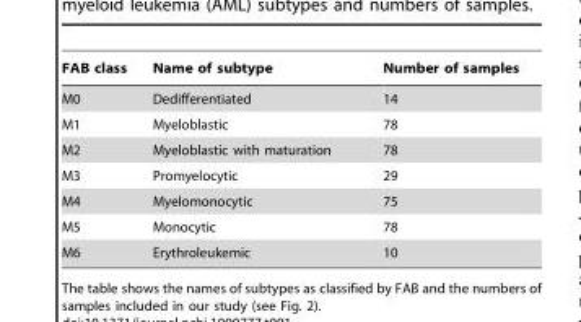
<table><thead><tr><td>FAB class</td><td>Name of subtype</td><td>Number of samples</td></tr></thead><tbody><tr><td>M0</td><td>Dedifferentiated</td><td>14</td></tr><tr><td>M1</td><td>Myeloblastic</td><td>78</td></tr><tr><td>M2</td><td>Myeloblastic with maturation</td><td>78</td></tr><tr><td>M3</td><td>Promyelocytic</td><td>29</td></tr><tr><td>M4</td><td>Myelomonocytic</td><td>75</td></tr><tr><td>M5</td><td>Monocytic</td><td>78</td></tr><tr><td>M6</td><td>Erythroleukemic</td><td>10</td></tr></tbody></table>